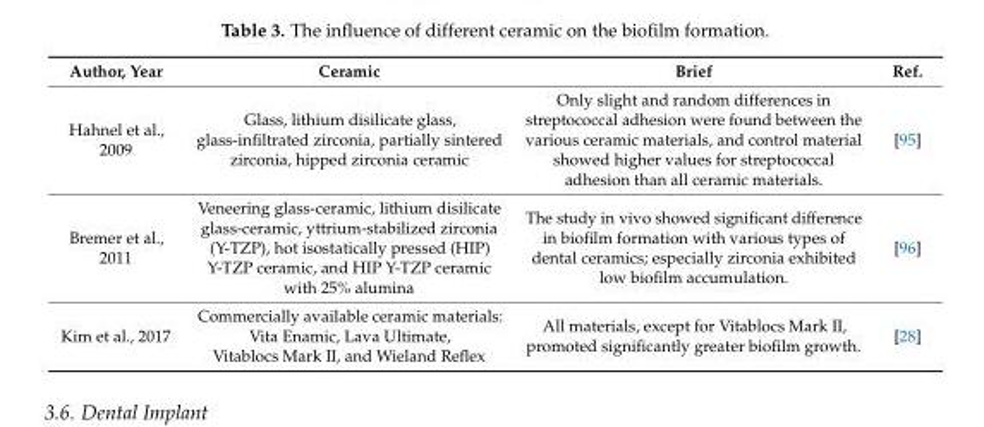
<table><thead><tr><td>Author, Year</td><td>Ceramic</td><td>Brief</td><td>Ref.</td></tr></thead><tbody><tr><td>Hahnel et al., 2009</td><td>Glass, lithium disilicate glass, glass-infiltrated zirconia, partially sintered zirconia, hipped zirconia ceramic</td><td>Only slight and random differences in streptococcal adhesion were found between the various ceramic materials, and control material showed higher values for streptococcal adhesion than all ceramic materials.</td><td>[95]</td></tr><tr><td>Bremer et al., 2011</td><td>Veneering glass-ceramic, lithium disilicate glass-ceramic, yttrium-stabilized zirconia (Y-TZP), hot isostatically pressed (HIP) Y-TZP ceramic, and HIP Y-TZP ceramic with 25% alumina</td><td>The study in vivo showed significant difference in biofilm formation with various types of dental ceramics; especially zirconia exhibited low biofilm accumulation.</td><td>[96]</td></tr><tr><td>Kim et al., 2017</td><td>Commercially available ceramic materials: Vita Enamic, Lava Ultimate, Vitablocs Mark II, and Wieland Reflex</td><td>All materials, except for Vitablocs Mark II, promoted significantly greater biofilm growth.</td><td>[28]</td></tr></tbody></table>